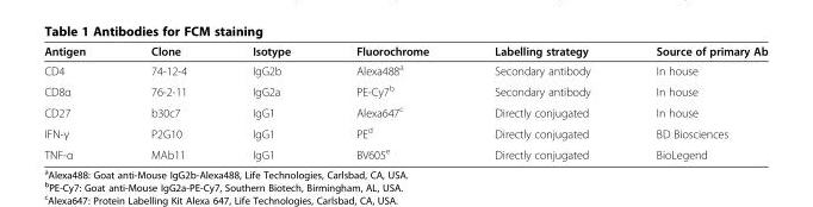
<table><thead><tr><td>Antigen</td><td>Clone</td><td>Isotype</td><td>Fluorochrome</td><td>Labelling strategy</td><td>Source of primary Ab</td></tr></thead><tbody><tr><td>CD4</td><td>74-12-4</td><td>IgG2b</td><td>Alexa488<sup>a</sup></td><td>Secondary antibody</td><td>In house</td></tr><tr><td>CD8α</td><td>76-2-11</td><td>IgG2a</td><td>PE-Cy7<sup>b</sup></td><td>Secondary antibody</td><td>In house</td></tr><tr><td>CD27</td><td>b30c7</td><td>IgG1</td><td>Alexa647<sup>c</sup></td><td>Directly conjugated</td><td>In house</td></tr><tr><td>IFN-γ</td><td>P2G10</td><td>IgG1</td><td>PE<sup>d</sup></td><td>Directly conjugated</td><td>BD Biosciences</td></tr><tr><td>TNF-α</td><td>MAb11</td><td>IgG1</td><td>BV605<sup>e</sup></td><td>Directly conjugated</td><td>BioLegend</td></tr></tbody></table>